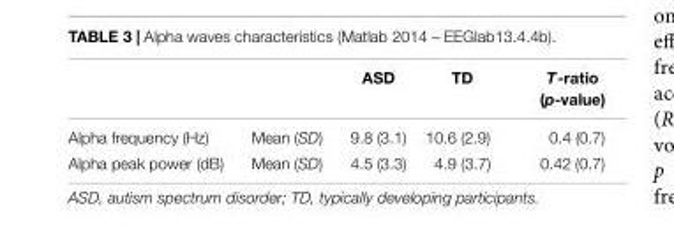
<table><thead><tr><td></td><td></td><td>ASD</td><td>TD</td><td>T-ratio (p-value)</td></tr></thead><tbody><tr><td>Alpha frequency (Hz)</td><td>Mean (SD)</td><td>9.8 (3.1)</td><td>10.6 (2.9)</td><td>0.4 (0.7)</td></tr><tr><td>Alpha peak power (dB)</td><td>Mean (SD)</td><td>4.5 (3.3)</td><td>4.9 (3.7)</td><td>0.42 (0.7)</td></tr></tbody></table>